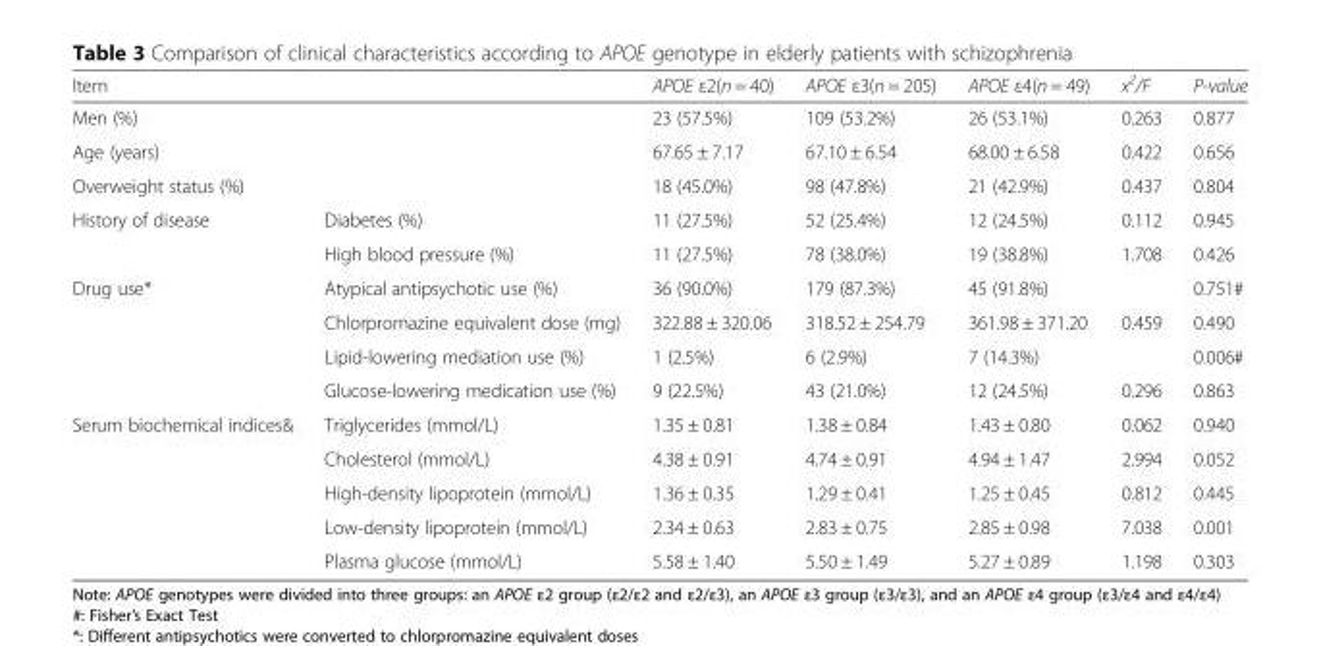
<table><thead><tr><td>Item</td><td></td><td>APOE ε2(n = 40)</td><td>APOE ε3(n = 205)</td><td>APOE ε4(n = 49)</td><td>x<sup>2</sup>/F</td><td>P-value</td></tr></thead><tbody><tr><td>Men (%)</td><td></td><td>23 (57.5%)</td><td>109 (53.2%)</td><td>26 (53.1%)</td><td>0.263</td><td>0.877</td></tr><tr><td>Age (years)</td><td></td><td>67.65 ± 7.17</td><td>67.10 ± 6.54</td><td>68.00 ± 6.58</td><td>0.422</td><td>0.656</td></tr><tr><td>Overweight status (%)</td><td></td><td>18 (45.0%)</td><td>98 (47.8%)</td><td>21 (42.9%)</td><td>0.437</td><td>0.804</td></tr><tr><td rowspan="2">History of disease</td><td>Diabetes (%)</td><td>11 (27.5%)</td><td>52 (25.4%)</td><td>12 (24.5%)</td><td>0.112</td><td>0.945</td></tr><tr><td>High blood pressure (%)</td><td>11 (27.5%)</td><td>78 (38.0%)</td><td>19 (38.8%)</td><td>1.708</td><td>0.426</td></tr><tr><td rowspan="4">Drug use*</td><td>Atypical antipsychotic use (%)</td><td>36 (90.0%)</td><td>179 (87.3%)</td><td>45 (91.8%)</td><td></td><td>0.751#</td></tr><tr><td>Chlorpromazine equivalent dose (mg)</td><td>322.88 ± 320.06</td><td>318.52 ± 254.79</td><td>361.98 ± 371.20</td><td>0.459</td><td>0.490</td></tr><tr><td>Lipid-lowering mediation use (%)</td><td>1 (2.5%)</td><td>6 (2.9%)</td><td>7 (14.3%)</td><td></td><td>0.006#</td></tr><tr><td>Glucose-lowering medication use (%)</td><td>9 (22.5%)</td><td>43 (21.0%)</td><td>12 (24.5%)</td><td>0.296</td><td>0.863</td></tr><tr><td rowspan="5">Serum biochemical indices&amp;</td><td>Triglycerides (mmol/L)</td><td>1.35 ± 0.81</td><td>1.38 ± 0.84</td><td>1.43 ± 0.80</td><td>0.062</td><td>0.940</td></tr><tr><td>Cholesterol (mmol/L)</td><td>4.38 ± 0.91</td><td>4.74 ± 0.91</td><td>4.94 ± 1.47</td><td>2.994</td><td>0.052</td></tr><tr><td>High-density lipoprotein (mmol/L)</td><td>1.36 ± 0.35</td><td>1.29 ± 0.41</td><td>1.25 ± 0.45</td><td>0.812</td><td>0.445</td></tr><tr><td>Low-density lipoprotein (mmol/L)</td><td>2.34 ± 0.63</td><td>2.83 ± 0.75</td><td>2.85 ± 0.98</td><td>7.038</td><td>0.001</td></tr><tr><td>Plasma glucose (mmol/L)</td><td>5.58 ± 1.40</td><td>5.50 ± 1.49</td><td>5.27 ± 0.89</td><td>1.198</td><td>0.303</td></tr></tbody></table>